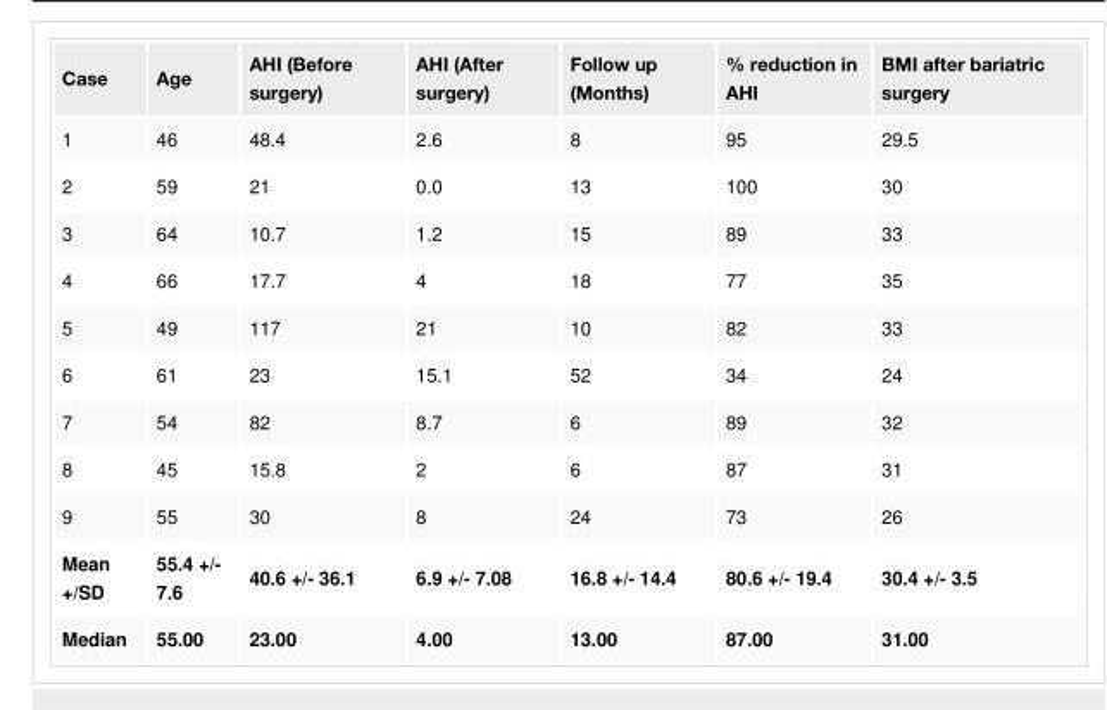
<table><tbody><tr><td>Case</td><td>Age</td><td>AHI (Before surgery)</td><td>AHI (After surgery)</td><td>Follow up (Months)</td><td>% reduction in AHI</td><td>BMI after bariatric surgery</td></tr><tr><td>1</td><td>46</td><td>48.4</td><td>2.6</td><td>8</td><td>95</td><td>29.5</td></tr><tr><td>2</td><td>59</td><td>21</td><td>0.0</td><td>13</td><td>100</td><td>30</td></tr><tr><td>3</td><td>64</td><td>10.7</td><td>1.2</td><td>15</td><td>89</td><td>33</td></tr><tr><td>4</td><td>66</td><td>17.7</td><td>4</td><td>18</td><td>77</td><td>35</td></tr><tr><td>5</td><td>49</td><td>117</td><td>21</td><td>10</td><td>82</td><td>33</td></tr><tr><td>6</td><td>61</td><td>23</td><td>15.1</td><td>52</td><td>34</td><td>24</td></tr><tr><td>7</td><td>54</td><td>82</td><td>8.7</td><td>6</td><td>89</td><td>32</td></tr><tr><td>8</td><td>45</td><td>15.8</td><td>2</td><td>6</td><td>87</td><td>31</td></tr><tr><td>9</td><td>55</td><td>30</td><td>8</td><td>24</td><td>73</td><td>26</td></tr><tr><td>Mean +/SD</td><td>55.4 +/- 7.6</td><td>40.6 +/- 36.1</td><td>6.9 +/- 7.08</td><td>16.8 +/- 14.4</td><td>80.6 +/- 19.4</td><td>30.4 +/- 3.5</td></tr><tr><td>Median</td><td>55.00</td><td>23.00</td><td>4.00</td><td>13.00</td><td>87.00</td><td>31.00</td></tr></tbody></table>